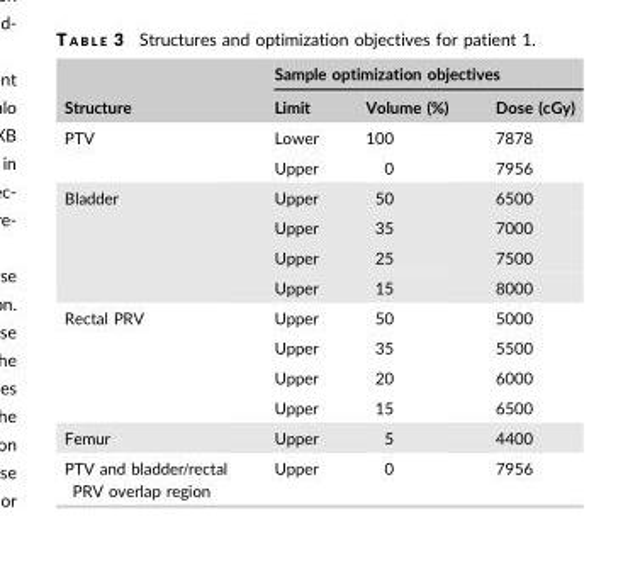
<table><thead><tr><td rowspan="2">Structure</td><td colspan="3">Sample optimization objectives</td></tr><tr><td>Limit</td><td>Volume (%)</td><td>Dose (cGy)</td></tr></thead><tbody><tr><td rowspan="2">PTV</td><td>Lower</td><td>100</td><td>7878</td></tr><tr><td>Upper</td><td>0</td><td>7956</td></tr><tr><td rowspan="4">Bladder</td><td>Upper</td><td>50</td><td>6500</td></tr><tr><td>Upper</td><td>35</td><td>7000</td></tr><tr><td>Upper</td><td>25</td><td>7500</td></tr><tr><td>Upper</td><td>15</td><td>8000</td></tr><tr><td rowspan="4">Rectal PRV</td><td>Upper</td><td>50</td><td>5000</td></tr><tr><td>Upper</td><td>35</td><td>5500</td></tr><tr><td>Upper</td><td>20</td><td>6000</td></tr><tr><td>Upper</td><td>15</td><td>6500</td></tr><tr><td>Femur</td><td>Upper</td><td>5</td><td>4400</td></tr><tr><td>PTV and bladder/rectal PRV overlap region</td><td>Upper</td><td>0</td><td>7956</td></tr></tbody></table>